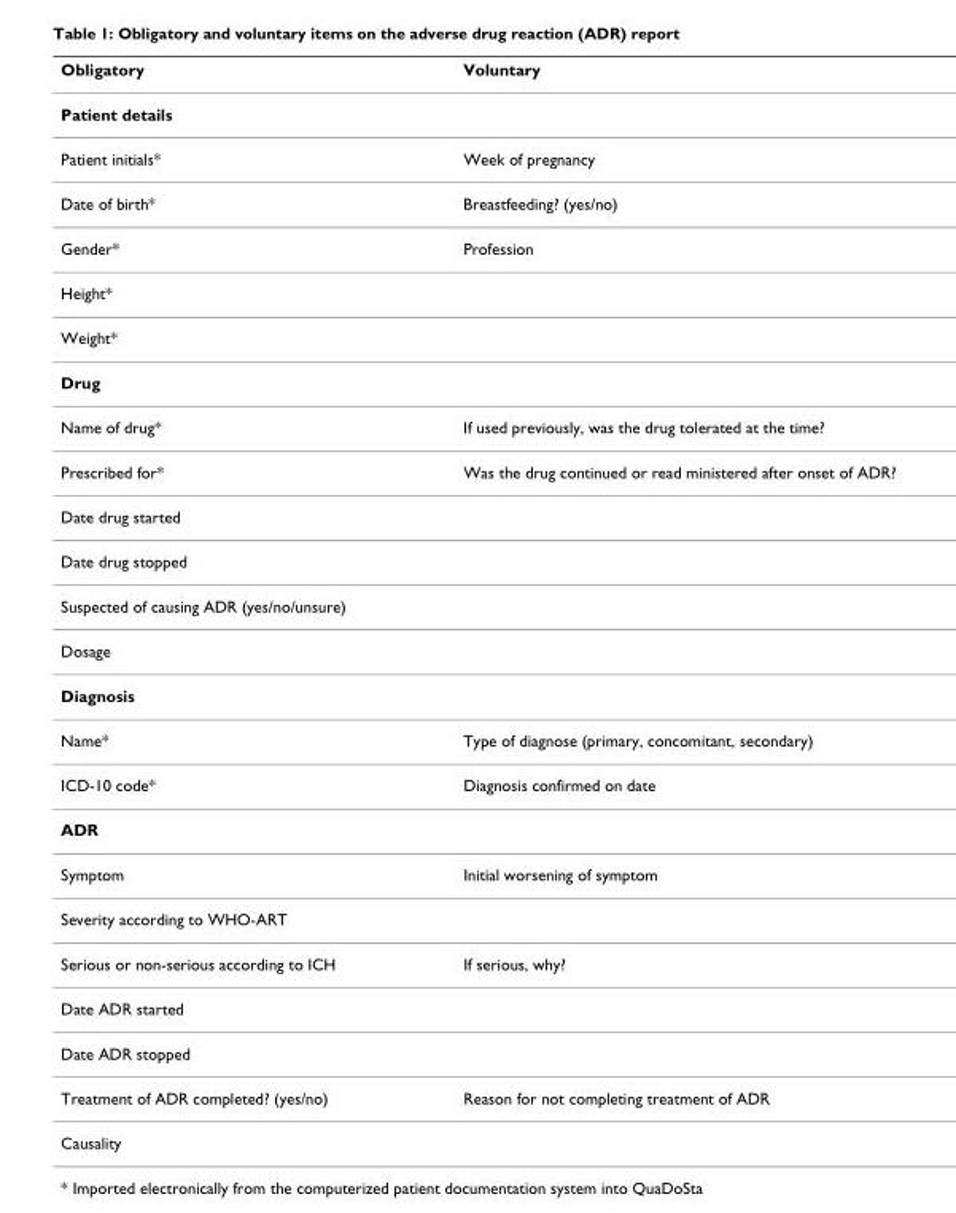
<table><thead><tr><td>Obligatory</td><td>Voluntary</td></tr></thead><tbody><tr><td colspan="2">Patient details</td></tr><tr><td>Patient initials*</td><td>Week of pregnancy</td></tr><tr><td>Date of birth*</td><td>Breastfeeding? (yes/no)</td></tr><tr><td>Gender*</td><td>Profession</td></tr><tr><td colspan="2">Height*</td></tr><tr><td colspan="2">Weight*</td></tr><tr><td colspan="2">Drug</td></tr><tr><td>Name of drug*</td><td>If used previously, was the drug tolerated at the time?</td></tr><tr><td>Prescribed for*</td><td>Was the drug continued or read ministered after onset of ADR?</td></tr><tr><td colspan="2">Date drug started</td></tr><tr><td colspan="2">Date drug stopped</td></tr><tr><td colspan="2">Suspected of causing ADR (yes/no/unsure)</td></tr><tr><td colspan="2">Dosage</td></tr><tr><td colspan="2">Diagnosis</td></tr><tr><td>Name*</td><td>Type of diagnose (primary, concomitant, secondary)</td></tr><tr><td>ICD-10 code*</td><td>Diagnosis confirmed on date</td></tr><tr><td colspan="2">ADR</td></tr><tr><td>Symptom</td><td>Initial worsening of symptom</td></tr><tr><td colspan="2">Severity according to WHO-ART</td></tr><tr><td>Serious or non-serious according to ICH</td><td>If serious, why?</td></tr><tr><td colspan="2">Date ADR started</td></tr><tr><td colspan="2">Date ADR stopped</td></tr><tr><td>Treatment of ADR completed? (yes/no)</td><td>Reason for not completing treatment of ADR</td></tr><tr><td>Causality</td><td></td></tr></tbody></table>